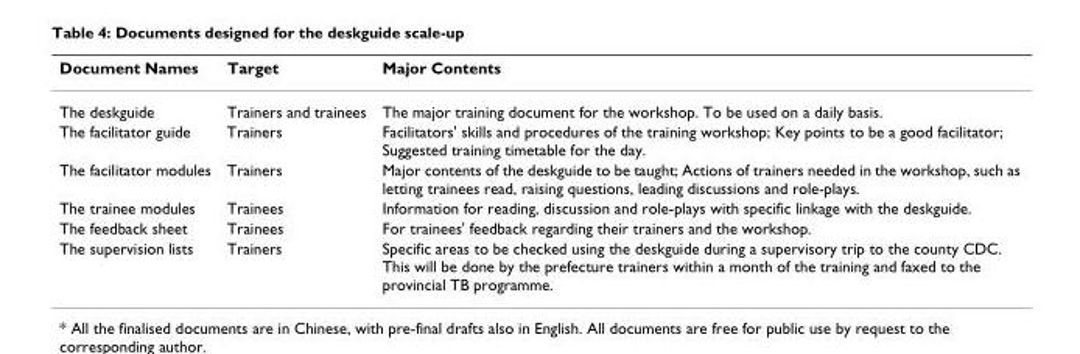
<table><thead><tr><td>Document Names</td><td>Target</td><td>Major Contents</td></tr></thead><tbody><tr><td>The deskguide</td><td>Trainers and trainees</td><td>The major training document for the workshop. To be used on a daily basis.</td></tr><tr><td>The facilitator guide</td><td>Trainers</td><td>Facilitators&#x27; skills and procedures of the training workshop; Key points to be a good facilitator; Suggested training timetable for the day.</td></tr><tr><td>The facilitator modules</td><td>Trainers</td><td>Major contents of the deskguide to be taught; Actions of trainers needed in the workshop, such as letting trainees read, raising questions, leading discussions and role-plays.</td></tr><tr><td>The trainee modules</td><td>Trainees</td><td>Information for reading, discussion and role-plays with specific linkage with the deskguide.</td></tr><tr><td>The feedback sheet</td><td>Trainees</td><td>For trainees&#x27; feedback regarding their trainers and the workshop.</td></tr><tr><td>The supervision lists</td><td>Trainers</td><td>Specific areas to be checked using the deskguide during a supervisory trip to the county CDC. This will be done by the prefecture trainers within a month of the training and faxed to the provincial TB programme.</td></tr></tbody></table>